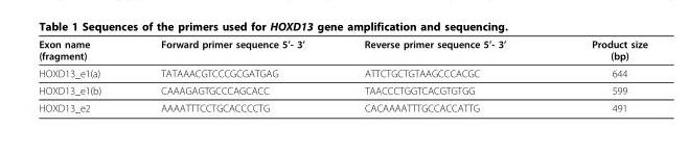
<table><thead><tr><td>Exon name (fragment)</td><td>Forward primer sequence 5’- 3’</td><td>Reverse primer sequence 5’- 3’</td><td>Product size (bp)</td></tr></thead><tbody><tr><td>HOXD13_e1(a)</td><td>TATAAACGTCCCGCGATGAG</td><td>ATTCTGCTGTAAGCCCACGC</td><td>644</td></tr><tr><td>HOXD13_e1(b)</td><td>CAAAGAGTGCCCAGCACC</td><td>TAACCCTGGTCACGTGTGG</td><td>599</td></tr><tr><td>HOXD13_e2</td><td>AAAATTTCCTGCACCCCTG</td><td>CACAAAATTTGCCACCATTG</td><td>491</td></tr></tbody></table>